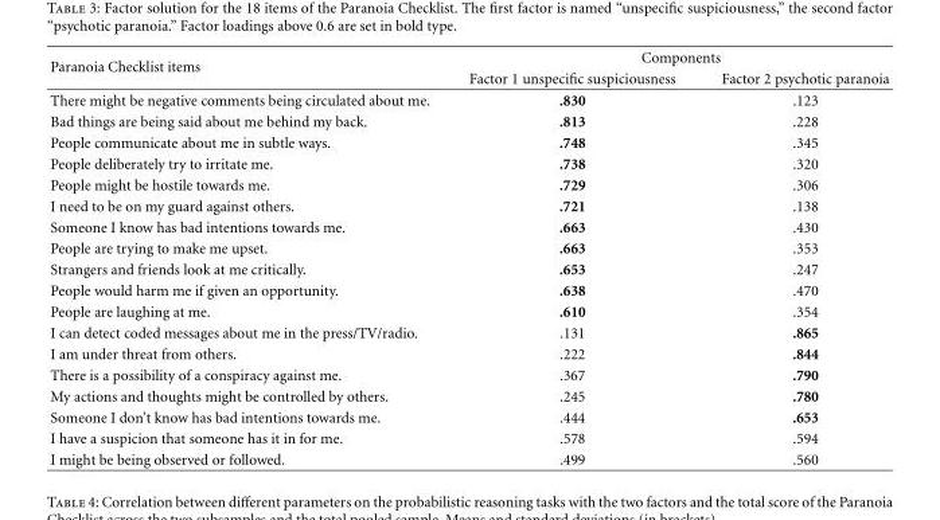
<table><thead><tr><td rowspan="2">Paranoia Checklist items</td><td colspan="2">Components</td></tr><tr><td>Factor 1 unspecific suspiciousness</td><td>Factor 2 psychotic paranoia</td></tr></thead><tbody><tr><td>There might be negative comments being circulated about me.</td><td>.830</td><td>.123</td></tr><tr><td>Bad things are being said about me behind my back.</td><td>.813</td><td>.228</td></tr><tr><td>People communicate about me in subtle ways.</td><td>.748</td><td>.345</td></tr><tr><td>People deliberately try to irritate me.</td><td>.738</td><td>.320</td></tr><tr><td>People might be hostile towards me.</td><td>.729</td><td>.306</td></tr><tr><td>I need to be on my guard against others.</td><td>.721</td><td>.138</td></tr><tr><td>Someone I know has bad intentions towards me.</td><td>.663</td><td>.430</td></tr><tr><td>People are trying to make me upset.</td><td>.663</td><td>.353</td></tr><tr><td>Strangers and friends look at me critically.</td><td>.653</td><td>.247</td></tr><tr><td>People would harm me if given an opportunity.</td><td>.638</td><td>.470</td></tr><tr><td>People are laughing at me.</td><td>.610</td><td>.354</td></tr><tr><td>I can detect coded messages about me in the press/TV/radio.</td><td>.131</td><td>.865</td></tr><tr><td>I am under threat from others.</td><td>.222</td><td>.844</td></tr><tr><td>There is a possibility of a conspiracy against me.</td><td>.367</td><td>.790</td></tr><tr><td>My actions and thoughts might be controlled by others.</td><td>.245</td><td>.780</td></tr><tr><td>Someone I don’t know has bad intentions towards me.</td><td>.444</td><td>.653</td></tr><tr><td>I have a suspicion that someone has it in for me.</td><td>.578</td><td>.594</td></tr><tr><td>I might be being observed or followed.</td><td>.499</td><td>.560</td></tr></tbody></table>